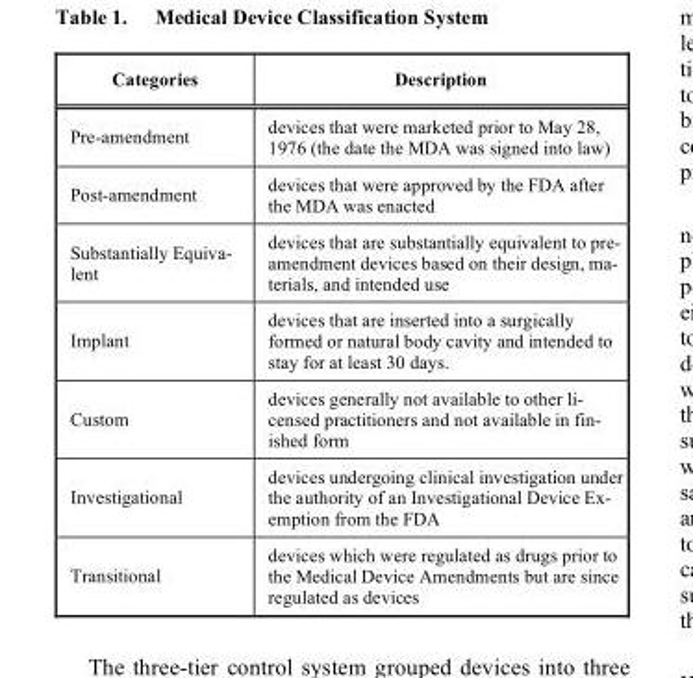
<table><thead><tr><td>Categories</td><td>Description</td></tr></thead><tbody><tr><td>Pre-amendment</td><td>devices that were marketed prior to May 28, 1976 (the date the MDA was signed into law)</td></tr><tr><td>Post-amendment</td><td>devices that were approved by the FDA after the MDA was enacted</td></tr><tr><td>Substantially Equiva- lent</td><td>devices that are substantially equivalent to pre- amendment devices based on their design, ma- terials, and intended use</td></tr><tr><td>Implant</td><td>devices that are inserted into a surgically formed or natural body cavity and intended to stay for at least 30 days.</td></tr><tr><td>Custom</td><td>devices generally not available to other li- censed practitioners and not available in fin- ished form</td></tr><tr><td>Investigational</td><td>devices undergoing clinical investigation under the authority of an Investigational Device Ex- emption from the FDA</td></tr><tr><td>Transitional</td><td>devices which were regulated as drugs prior to the Medical Device Amendments but are since regulated as devices</td></tr></tbody></table>